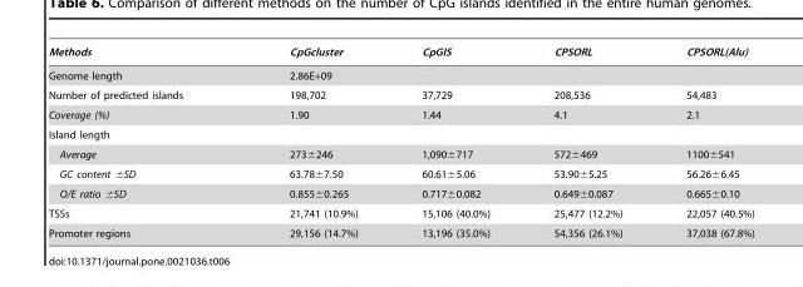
<table><thead><tr><td>Methods</td><td>CpGcluster</td><td>CpGIS</td><td>CPSORL</td><td>CPSORL(Alu)</td></tr></thead><tbody><tr><td>Genome length</td><td colspan="4">2.86E+09</td></tr><tr><td>Number of predicted islands</td><td>198,702</td><td>37,729</td><td>208,536</td><td>54,483</td></tr><tr><td>Coverage (%)</td><td>1.90</td><td>1.44</td><td>4.1</td><td>2.1</td></tr><tr><td colspan="5">Island length</td></tr><tr><td>Average</td><td>273±246</td><td>1,090±717</td><td>572±469</td><td>1100±541</td></tr><tr><td>GC content ±SD</td><td>63.78±7.50</td><td>60.61±5.06</td><td>53.90±5.25</td><td>56.26±6.45</td></tr><tr><td>O/E ratio ±SD</td><td>0.855±0.265</td><td>0.717±0.082</td><td>0.649±0.087</td><td>0.665±0.10</td></tr><tr><td>TSSs</td><td>21,741 (10.9%)</td><td>15,106 (40.0%)</td><td>25,477 (12.2%)</td><td>22,057 (40.5%)</td></tr><tr><td>Promoter regions</td><td>29,156 (14.7%)</td><td>13,196 (35.0%)</td><td>54,356 (26.1%)</td><td>37,038 (67.8%)</td></tr></tbody></table>